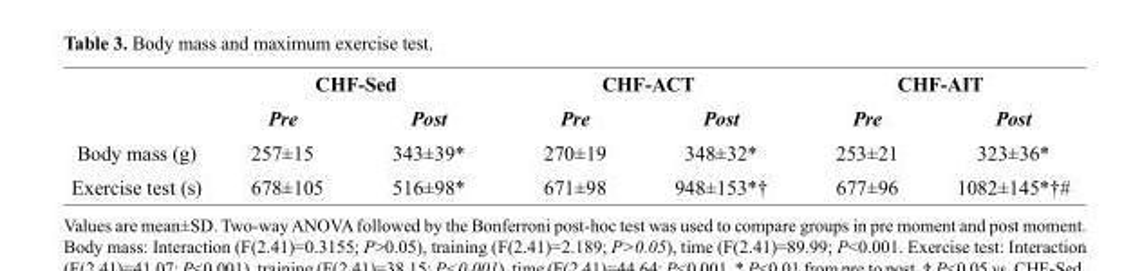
<table><thead><tr><td rowspan="2"></td><td colspan="2">CHF-Sed</td><td colspan="2">CHF-ACT</td><td colspan="2">CHF-AIT</td></tr><tr><td>Pre</td><td>Post</td><td>Pre</td><td>Post</td><td>Pre</td><td>Post</td></tr></thead><tbody><tr><td>Body mass (g)</td><td>257±15</td><td>343±39*</td><td>270±19</td><td>348±32*</td><td>253±21</td><td>323±36*</td></tr><tr><td>Exercise test (s)</td><td>678±105</td><td>516±98*</td><td>671±98</td><td>948±153<sup>*†</sup></td><td>677±96</td><td>1082±145<sup>*†#</sup></td></tr></tbody></table>